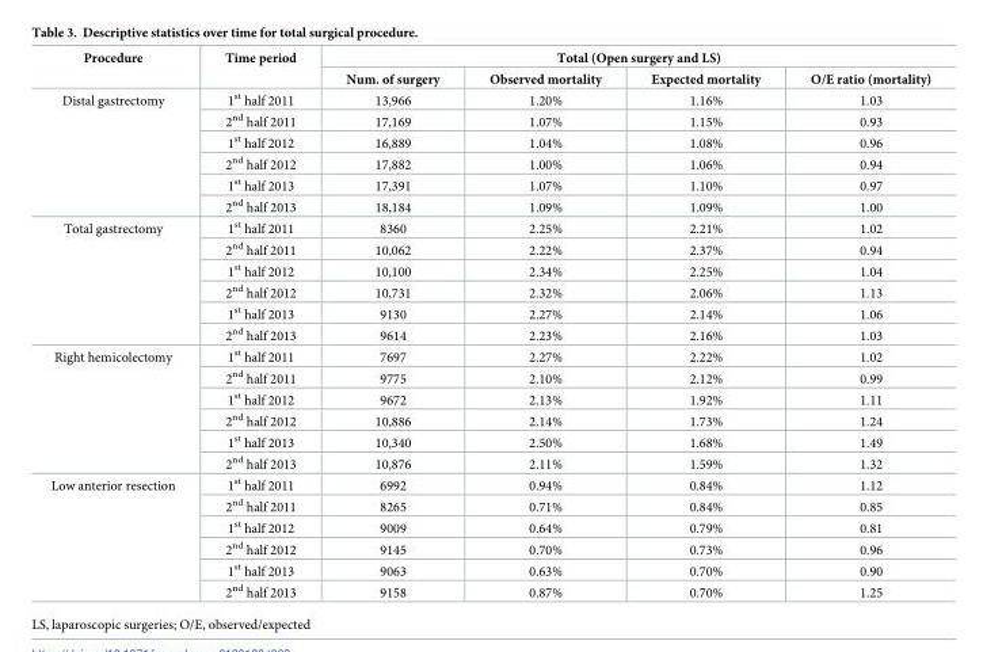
<table><thead><tr><td rowspan="2">Procedure</td><td rowspan="2">Time period</td><td colspan="4">Total (Open surgery and LS)</td></tr><tr><td>Num. of surgery</td><td>Observed mortality</td><td>Expected mortality</td><td>O/E ratio (mortality)</td></tr></thead><tbody><tr><td rowspan="6">Distal gastrectomy</td><td>1<sup>st</sup> half 2011</td><td>13,966</td><td>1.20%</td><td>1.16%</td><td>1.03</td></tr><tr><td>2<sup>nd</sup> half 2011</td><td>17,169</td><td>1.07%</td><td>1.15%</td><td>0.93</td></tr><tr><td>1<sup>st</sup> half 2012</td><td>16,889</td><td>1.04%</td><td>1.08%</td><td>0.96</td></tr><tr><td>2<sup>nd</sup> half 2012</td><td>17,882</td><td>1.00%</td><td>1.06%</td><td>0.94</td></tr><tr><td>1<sup>st</sup> half 2013</td><td>17,391</td><td>1.07%</td><td>1.10%</td><td>0.97</td></tr><tr><td>2<sup>nd</sup> half 2013</td><td>18,184</td><td>1.09%</td><td>1.09%</td><td>1.00</td></tr><tr><td rowspan="6">Total gastrectomy</td><td>1<sup>st</sup> half 2011</td><td>8360</td><td>2.25%</td><td>2.21%</td><td>1.02</td></tr><tr><td>2<sup>nd</sup> half 2011</td><td>10,062</td><td>2.22%</td><td>2.37%</td><td>0.94</td></tr><tr><td>1<sup>st</sup> half 2012</td><td>10,100</td><td>2.34%</td><td>2.25%</td><td>1.04</td></tr><tr><td>2<sup>nd</sup> half 2012</td><td>10,731</td><td>2.32%</td><td>2.06%</td><td>1.13</td></tr><tr><td>1<sup>st</sup> half 2013</td><td>9130</td><td>2.27%</td><td>2.14%</td><td>1.06</td></tr><tr><td>2<sup>nd</sup> half 2013</td><td>9614</td><td>2.23%</td><td>2.16%</td><td>1.03</td></tr><tr><td rowspan="6">Right hemicolectomy</td><td>1<sup>st</sup> half 2011</td><td>7697</td><td>2.27%</td><td>2.22%</td><td>1.02</td></tr><tr><td>2<sup>nd</sup> half 2011</td><td>9775</td><td>2.10%</td><td>2.12%</td><td>0.99</td></tr><tr><td>1<sup>st</sup> half 2012</td><td>9672</td><td>2.13%</td><td>1.92%</td><td>1.11</td></tr><tr><td>2<sup>nd</sup> half 2012</td><td>10,886</td><td>2.14%</td><td>1.73%</td><td>1.24</td></tr><tr><td>1<sup>st</sup> half 2013</td><td>10,340</td><td>2.50%</td><td>1.68%</td><td>1.49</td></tr><tr><td>2<sup>nd</sup> half 2013</td><td>10,876</td><td>2.11%</td><td>1.59%</td><td>1.32</td></tr><tr><td rowspan="6">Low anterior resection</td><td>1<sup>st</sup> half 2011</td><td>6992</td><td>0.94%</td><td>0.84%</td><td>1.12</td></tr><tr><td>2<sup>nd</sup> half 2011</td><td>8265</td><td>0.71%</td><td>0.84%</td><td>0.85</td></tr><tr><td>1<sup>st</sup> half 2012</td><td>9009</td><td>0.64%</td><td>0.79%</td><td>0.81</td></tr><tr><td>2<sup>nd</sup> half 2012</td><td>9145</td><td>0.70%</td><td>0.73%</td><td>0.96</td></tr><tr><td>1<sup>st</sup> half 2013</td><td>9063</td><td>0.63%</td><td>0.70%</td><td>0.90</td></tr><tr><td>2<sup>nd</sup> half 2013</td><td>9158</td><td>0.87%</td><td>0.70%</td><td>1.25</td></tr></tbody></table>